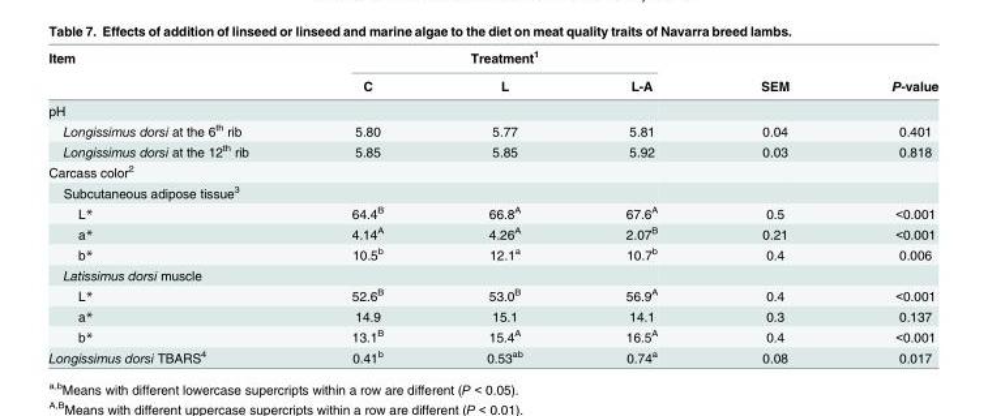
<table><thead><tr><td rowspan="2">Item</td><td colspan="3">Treatment<sup>1</sup></td><td rowspan="2">SEM</td><td rowspan="2">P-value</td></tr><tr><td>C</td><td>L</td><td>L-A</td></tr></thead><tbody><tr><td colspan="6">pH</td></tr><tr><td>Longissimus dorsi at the 6<sup>th</sup> rib</td><td>5.80</td><td>5.77</td><td>5.81</td><td>0.04</td><td>0.401</td></tr><tr><td>Longissimus dorsi at the 12<sup>th</sup> rib</td><td>5.85</td><td>5.85</td><td>5.92</td><td>0.03</td><td>0.818</td></tr><tr><td colspan="6">Carcass color<sup>2</sup></td></tr><tr><td colspan="6">Subcutaneous adipose tissue<sup>3</sup></td></tr><tr><td>L*</td><td>64.4<sup>B</sup></td><td>66.8<sup>A</sup></td><td>67.6<sup>A</sup></td><td>0.5</td><td>&lt;0.001</td></tr><tr><td>a*</td><td>4.14<sup>A</sup></td><td>4.26<sup>A</sup></td><td>2.07<sup>B</sup></td><td>0.21</td><td>&lt;0.001</td></tr><tr><td>b*</td><td>10.5<sup>b</sup></td><td>12.1<sup>a</sup></td><td>10.7<sup>b</sup></td><td>0.4</td><td>0.006</td></tr><tr><td colspan="6">Latissimus dorsi muscle</td></tr><tr><td>L*</td><td>52.6<sup>B</sup></td><td>53.0<sup>B</sup></td><td>56.9<sup>A</sup></td><td>0.4</td><td>&lt;0.001</td></tr><tr><td>a*</td><td>14.9</td><td>15.1</td><td>14.1</td><td>0.3</td><td>0.137</td></tr><tr><td>b*</td><td>13.1<sup>B</sup></td><td>15.4<sup>A</sup></td><td>16.5<sup>A</sup></td><td>0.4</td><td>&lt;0.001</td></tr><tr><td>Longissimus dorsi TBARS<sup>4</sup></td><td>0.41<sup>b</sup></td><td>0.53<sup>ab</sup></td><td>0.74<sup>a</sup></td><td>0.08</td><td>0.017</td></tr></tbody></table>